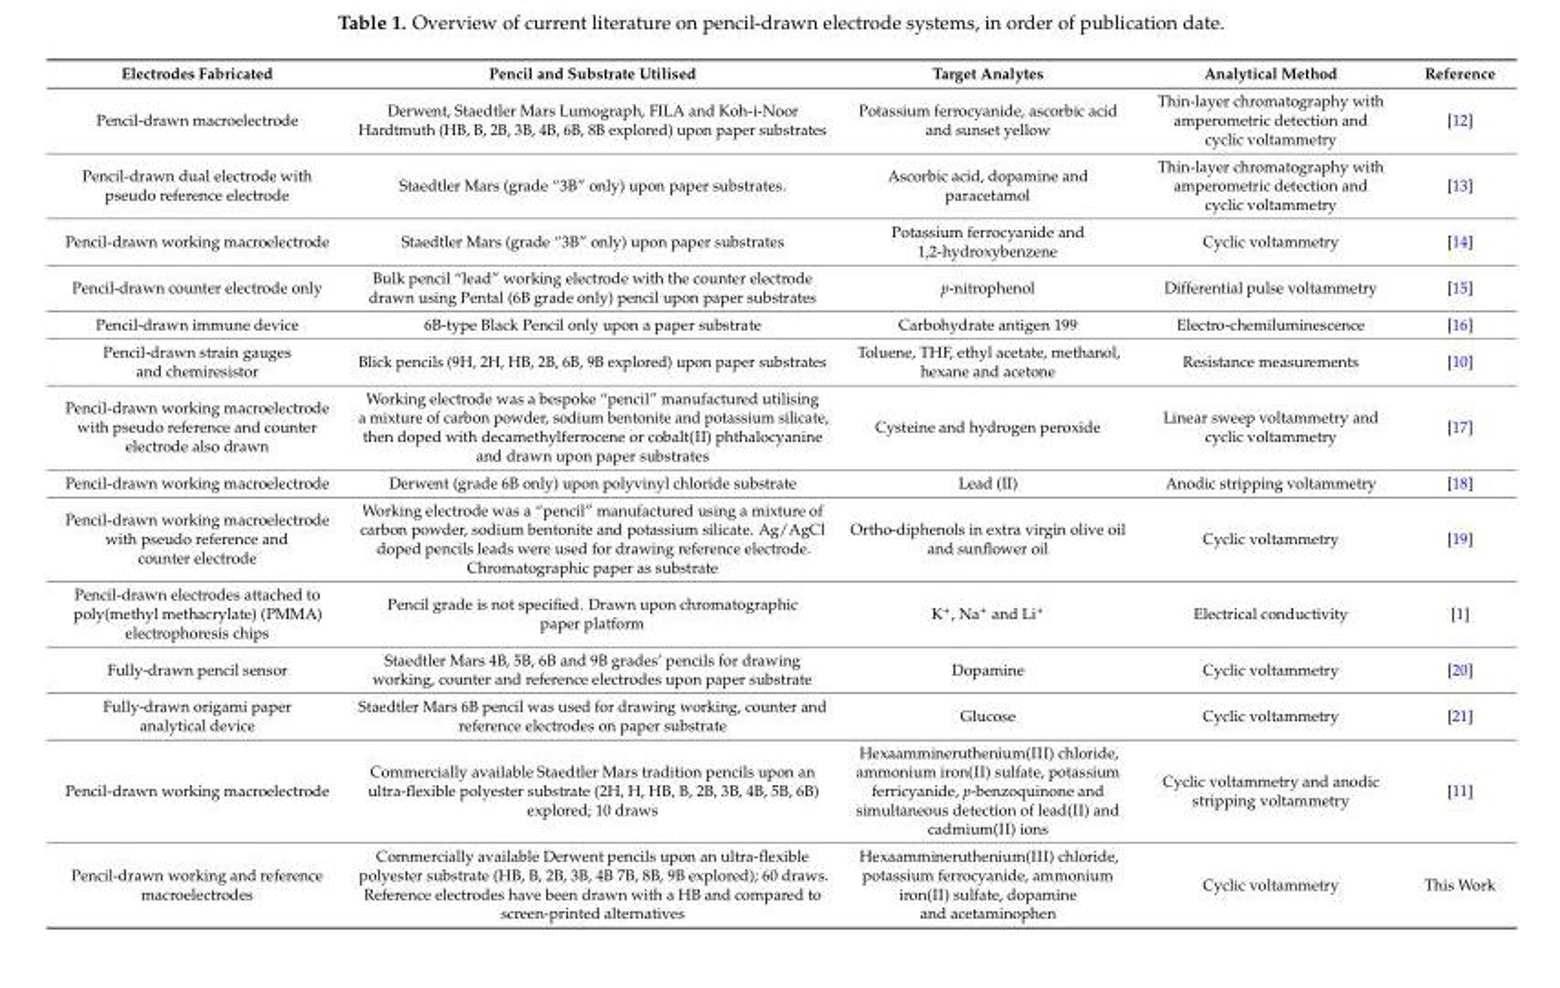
<table><thead><tr><td>Electrodes Fabricated</td><td>Pencil and Substrate Utilised</td><td>Target Analytes</td><td>Analytical Method</td><td>Reference</td></tr></thead><tbody><tr><td>Pencil-drawn macroelectrode</td><td>Derwent, Staedtler Mars Lumograph, FILA and Koh-i-Noor Hardtmuth (HB, B, 2B, 3B, 4B, 6B, 8B explored) upon paper substrates</td><td>Potassium ferrocyanide, ascorbic acid and sunset yellow</td><td>Thin-layer chromatography with amperometric detection and cyclic voltammetry</td><td>[12]</td></tr><tr><td>Pencil-drawn dual electrode with pseudo reference electrode</td><td>Staedtler Mars (grade “3B” only) upon paper substrates.</td><td>Ascorbic acid, dopamine and paracetamol</td><td>Thin-layer chromatography with amperometric detection and cyclic voltammetry</td><td>[13]</td></tr><tr><td>Pencil-drawn working macroelectrode</td><td>Staedtler Mars (grade “3B” only) upon paper substrates</td><td>Potassium ferrocyanide and 1,2-hydroxybenzene</td><td>Cyclic voltammetry</td><td>[14]</td></tr><tr><td>Pencil-drawn counter electrode only</td><td>Bulk pencil “lead” working electrode with the counter electrode drawn using Pental (6B grade only) pencil upon paper substrates</td><td>p-nitrophenol</td><td>Differential pulse voltammetry</td><td>[15]</td></tr><tr><td>Pencil-drawn immune device</td><td>6B-type Black Pencil only upon a paper substrate</td><td>Carbohydrate antigen 199</td><td>Electro-chemiluminescence</td><td>[16]</td></tr><tr><td>Pencil-drawn strain gauges and chemiresistor</td><td>Blick pencils (9H, 2H, HB, 2B, 6B, 9B explored) upon paper substrates</td><td>Toluene, THF, ethyl acetate, methanol, hexane and acetone</td><td>Resistance measurements</td><td>[10]</td></tr><tr><td>Pencil-drawn working macroelectrode with pseudo reference and counter electrode also drawn</td><td>Working electrode was a bespoke “pencil” manufactured utilising a mixture of carbon powder, sodium bentonite and potassium silicate, then doped with decamethylferrocene or cobalt(II) phthalocyanine and drawn upon paper substrates</td><td>Cysteine and hydrogen peroxide</td><td>Linear sweep voltammetry and cyclic voltammetry</td><td>[17]</td></tr><tr><td>Pencil-drawn working macroelectrode</td><td>Derwent (grade 6B only) upon polyvinyl chloride substrate</td><td>Lead (II)</td><td>Anodic stripping voltammetry</td><td>[18]</td></tr><tr><td>Pencil-drawn working macroelectrode with pseudo reference and counter electrode</td><td>Working electrode was a “pencil” manufactured using a mixture of carbon powder, sodium bentonite and potassium silicate. Ag/AgCl doped pencils leads were used for drawing reference electrode. Chromatographic paper as substrate</td><td>Ortho-diphenols in extra virgin olive oil and sunflower oil</td><td>Cyclic voltammetry</td><td>[19]</td></tr><tr><td>Pencil-drawn electrodes attached to poly(methyl methacrylate) (PMMA) electrophoresis chips</td><td>Pencil grade is not specified. Drawn upon chromatographic paper platform</td><td>K<sup>+</sup>, Na<sup>+</sup> and Li<sup>+</sup></td><td>Electrical conductivity</td><td>[1]</td></tr><tr><td>Fully-drawn pencil sensor</td><td>Staedtler Mars 4B, 5B, 6B and 9B grades’ pencils for drawing working, counter and reference electrodes upon paper substrate</td><td>Dopamine</td><td>Cyclic voltammetry</td><td>[20]</td></tr><tr><td>Fully-drawn origami paper analytical device</td><td>Staedtler Mars 6B pencil was used for drawing working, counter and reference electrodes on paper substrate</td><td>Glucose</td><td>Cyclic voltammetry</td><td>[21]</td></tr><tr><td>Pencil-drawn working macroelectrode</td><td>Commercially available Staedtler Mars tradition pencils upon an ultra-flexible polyester substrate (2H, H, HB, B, 2B, 3B, 4B, 5B, 6B) explored; 10 draws</td><td>Hexaammineruthenium(III) chloride, ammonium iron(II) sulfate, potassium ferricyanide, p-benzoquinone and simultaneous detection of lead(II) and cadmium(II) ions</td><td>Cyclic voltammetry and anodic stripping voltammetry</td><td>[11]</td></tr><tr><td>Pencil-drawn working and reference macroelectrodes</td><td>Commercially available Derwent pencils upon an ultra-flexible polyester substrate (HB, B, 2B, 3B, 4B 7B, 8B, 9B explored); 60 draws. Reference electrodes have been drawn with a HB and compared to screen-printed alternatives</td><td>Hexaammineruthenium(III) chloride, potassium ferrocyanide, ammonium iron(II) sulfate, dopamine and acetaminophen</td><td>Cyclic voltammetry</td><td>This Work</td></tr></tbody></table>